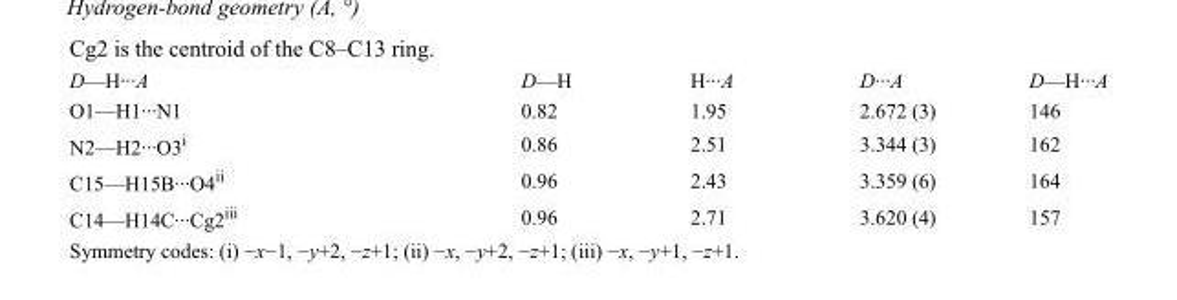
<table><tbody><tr><td>D—H···A</td><td>D—H</td><td>H···A</td><td>D···A</td><td>D—H···A</td></tr><tr><td>O1—H1···N1</td><td>0.82</td><td>1.95</td><td>2.672 (3)</td><td>146</td></tr><tr><td>N2—H2···O3<sup>i</sup></td><td>0.86</td><td>2.51</td><td>3.344 (3)</td><td>162</td></tr><tr><td>C15—H15B···O4<sup>ii</sup></td><td>0.96</td><td>2.43</td><td>3.359 (6)</td><td>164</td></tr><tr><td>C14—H14C···Cg2<sup>iii</sup></td><td>0.96</td><td>2.71</td><td>3.620 (4)</td><td>157</td></tr></tbody></table>